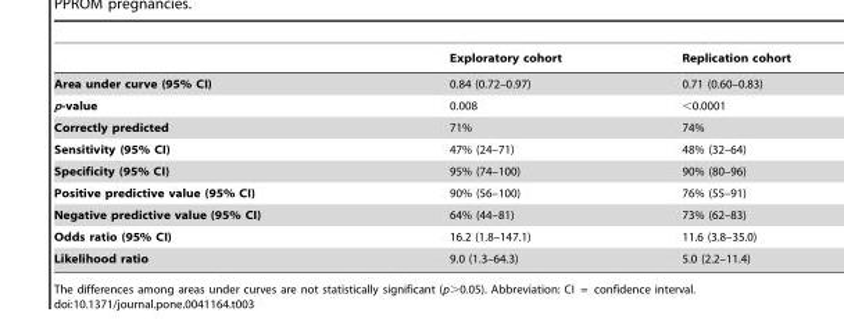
<table><thead><tr><td></td><td>Exploratory cohort</td><td>Replication cohort</td></tr></thead><tbody><tr><td>Area under curve (95% CI)</td><td>0.84 (0.72–0.97)</td><td>0.71 (0.60–0.83)</td></tr><tr><td>p-value</td><td>0.008</td><td>&lt;0.0001</td></tr><tr><td>Correctly predicted</td><td>71%</td><td>74%</td></tr><tr><td>Sensitivity (95% CI)</td><td>47% (24–71)</td><td>48% (32–64)</td></tr><tr><td>Specificity (95% CI)</td><td>95% (74–100)</td><td>90% (80–96)</td></tr><tr><td>Positive predictive value (95% CI)</td><td>90% (56–100)</td><td>76% (55–91)</td></tr><tr><td>Negative predictive value (95% CI)</td><td>64% (44–81)</td><td>73% (62–83)</td></tr><tr><td>Odds ratio (95% CI)</td><td>16.2 (1.8–147.1)</td><td>11.6 (3.8–35.0)</td></tr><tr><td>Likelihood ratio</td><td>9.0 (1.3–64.3)</td><td>5.0 (2.2–11.4)</td></tr></tbody></table>